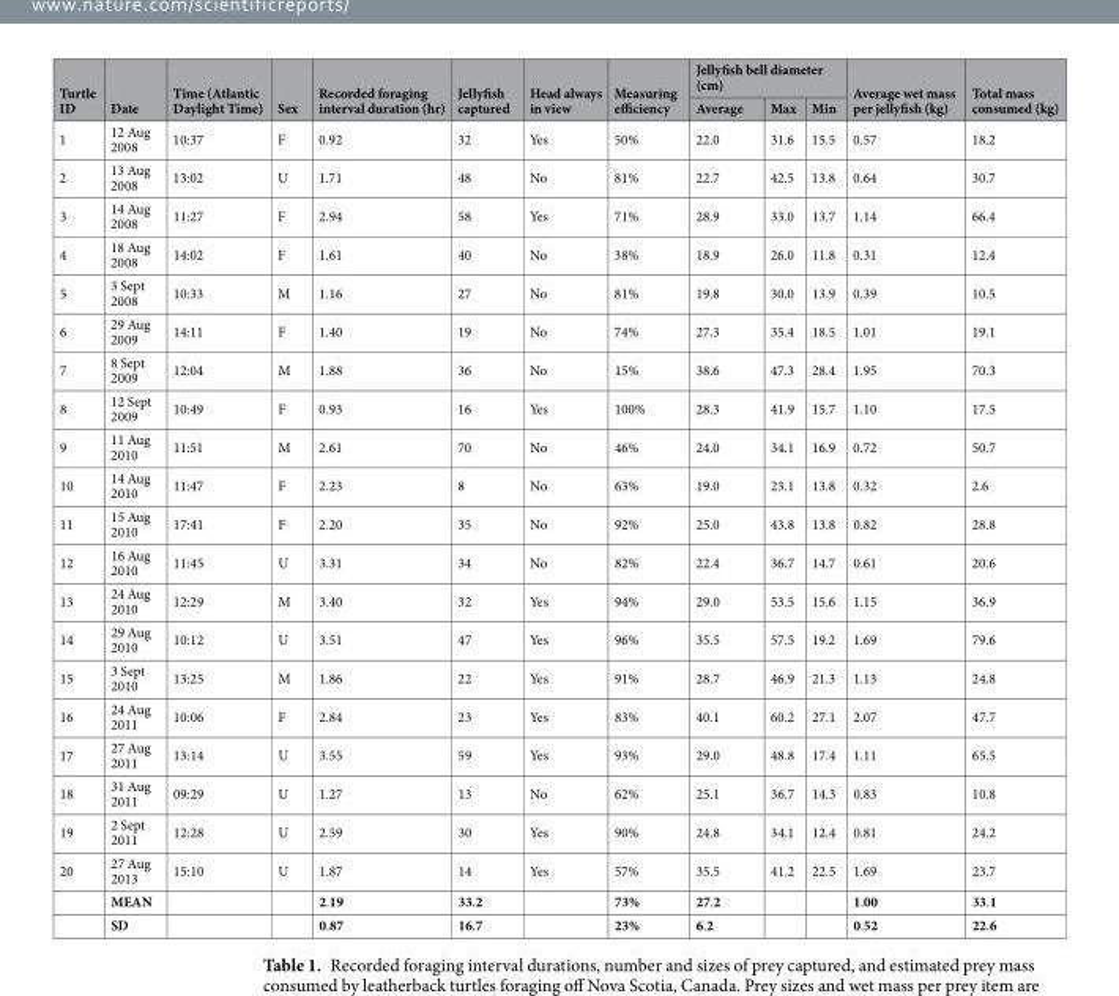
<table><thead><tr><td rowspan="2">Turtle ID</td><td rowspan="2">Date</td><td rowspan="2">Time (Atlantic Daylight Time)</td><td rowspan="2">Sex</td><td rowspan="2">Recorded foraging interval duration (hr)</td><td rowspan="2">Jellyfish captured</td><td rowspan="2">Head always in view</td><td rowspan="2">Measuring efficiency</td><td colspan="3">Jellyfish bell diameter (cm)</td><td rowspan="2">Average wet mass per jellyfish (kg)</td><td rowspan="2">Total mass consumed (kg)</td></tr><tr><td>Average</td><td>Max</td><td>Min</td></tr></thead><tbody><tr><td>1</td><td>12 Aug 2008</td><td>10:37</td><td>F</td><td>0.92</td><td>32</td><td>Yes</td><td>50%</td><td>22.0</td><td>31.6</td><td>15.5</td><td>0.57</td><td>18.2</td></tr><tr><td>2</td><td>13 Aug 2008</td><td>13:02</td><td>U</td><td>1.71</td><td>48</td><td>No</td><td>81%</td><td>22.7</td><td>42.5</td><td>13.8</td><td>0.64</td><td>30.7</td></tr><tr><td>3</td><td>14 Aug 2008</td><td>11:27</td><td>F</td><td>2.94</td><td>58</td><td>Yes</td><td>71%</td><td>28.9</td><td>33.0</td><td>13.7</td><td>1.14</td><td>66.4</td></tr><tr><td>4</td><td>18 Aug 2008</td><td>14:02</td><td>F</td><td>1.61</td><td>40</td><td>No</td><td>38%</td><td>18.9</td><td>26.0</td><td>11.8</td><td>0.31</td><td>12.4</td></tr><tr><td>5</td><td>3 Sept 2008</td><td>10:33</td><td>M</td><td>1.16</td><td>27</td><td>No</td><td>81%</td><td>19.8</td><td>30.0</td><td>13.9</td><td>0.39</td><td>10.5</td></tr><tr><td>6</td><td>29 Aug 2009</td><td>14:11</td><td>F</td><td>1.40</td><td>19</td><td>No</td><td>74%</td><td>27.3</td><td>35.4</td><td>18.5</td><td>1.01</td><td>19.1</td></tr><tr><td>7</td><td>8 Sept 2009</td><td>12:04</td><td>M</td><td>1.88</td><td>36</td><td>No</td><td>15%</td><td>38.6</td><td>47.3</td><td>28.4</td><td>1.95</td><td>70.3</td></tr><tr><td>8</td><td>12 Sept 2009</td><td>10:49</td><td>F</td><td>0.93</td><td>16</td><td>Yes</td><td>100%</td><td>28.3</td><td>41.9</td><td>15.7</td><td>1.10</td><td>17.5</td></tr><tr><td>9</td><td>11 Aug 2010</td><td>11:51</td><td>M</td><td>2.61</td><td>70</td><td>No</td><td>46%</td><td>24.0</td><td>34.1</td><td>16.9</td><td>0.72</td><td>50.7</td></tr><tr><td>10</td><td>14 Aug 2010</td><td>11:47</td><td>F</td><td>2.23</td><td>8</td><td>No</td><td>63%</td><td>19.0</td><td>23.1</td><td>13.8</td><td>0.32</td><td>2.6</td></tr><tr><td>11</td><td>15 Aug 2010</td><td>17:41</td><td>F</td><td>2.20</td><td>35</td><td>No</td><td>92%</td><td>25.0</td><td>43.8</td><td>13.8</td><td>0.82</td><td>28.8</td></tr><tr><td>12</td><td>16 Aug 2010</td><td>11:45</td><td>U</td><td>3.31</td><td>34</td><td>No</td><td>82%</td><td>22.4</td><td>36.7</td><td>14.7</td><td>0.61</td><td>20.6</td></tr><tr><td>13</td><td>24 Aug 2010</td><td>12:29</td><td>M</td><td>3.40</td><td>32</td><td>Yes</td><td>94%</td><td>29.0</td><td>53.5</td><td>15.6</td><td>1.15</td><td>36.9</td></tr><tr><td>14</td><td>29 Aug 2010</td><td>10:12</td><td>U</td><td>3.51</td><td>47</td><td>Yes</td><td>96%</td><td>35.5</td><td>57.5</td><td>19.2</td><td>1.69</td><td>79.6</td></tr><tr><td>15</td><td>3 Sept 2010</td><td>13:25</td><td>M</td><td>1.86</td><td>22</td><td>Yes</td><td>91%</td><td>28.7</td><td>46.9</td><td>21.3</td><td>1.13</td><td>24.8</td></tr><tr><td>16</td><td>24 Aug 2011</td><td>10:06</td><td>F</td><td>2.84</td><td>23</td><td>Yes</td><td>83%</td><td>40.1</td><td>60.2</td><td>27.1</td><td>2.07</td><td>47.7</td></tr><tr><td>17</td><td>27 Aug 2011</td><td>13:14</td><td>U</td><td>3.55</td><td>59</td><td>Yes</td><td>93%</td><td>29.0</td><td>48.8</td><td>17.4</td><td>1.11</td><td>65.5</td></tr><tr><td>18</td><td>31 Aug 2011</td><td>09:29</td><td>U</td><td>1.27</td><td>13</td><td>No</td><td>62%</td><td>25.1</td><td>36.7</td><td>14.3</td><td>0.83</td><td>10.8</td></tr><tr><td>19</td><td>2 Sept 2011</td><td>12:28</td><td>U</td><td>2.59</td><td>30</td><td>Yes</td><td>90%</td><td>24.8</td><td>34.1</td><td>12.4</td><td>0.81</td><td>24.2</td></tr><tr><td rowspan="3">20</td><td>27 Aug 2013</td><td>15:10</td><td>U</td><td>1.87</td><td>14</td><td>Yes</td><td>57%</td><td>35.5</td><td>41.2</td><td>22.5</td><td>1.69</td><td>23.7</td></tr><tr><td>MEAN</td><td></td><td></td><td>2.19</td><td>33.2</td><td></td><td>73%</td><td>27.2</td><td></td><td></td><td>1.00</td><td>33.1</td></tr><tr><td>SD</td><td></td><td></td><td>0.87</td><td>16.7</td><td></td><td>23%</td><td>6.2</td><td></td><td></td><td>0.52</td><td>22.6</td></tr></tbody></table>